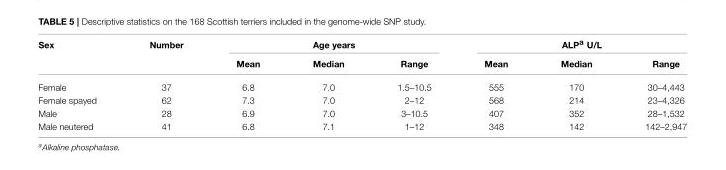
<table><thead><tr><td rowspan="2">Sex</td><td rowspan="2">Number</td><td colspan="3">Age years</td><td colspan="3">ALP<sup>a</sup> U/L</td></tr><tr><td>Mean</td><td>Median</td><td>Range</td><td>Mean</td><td>Median</td><td>Range</td></tr></thead><tbody><tr><td>Female</td><td>37</td><td>6.8</td><td>7.0</td><td>1.5–10.5</td><td>555</td><td>170</td><td>30–4,443</td></tr><tr><td>Female spayed</td><td>62</td><td>7.3</td><td>7.0</td><td>2–12</td><td>568</td><td>214</td><td>23–4,326</td></tr><tr><td>Male</td><td>28</td><td>6.9</td><td>7.0</td><td>3–10.5</td><td>407</td><td>352</td><td>28–1,532</td></tr><tr><td>Male neutered</td><td>41</td><td>6.8</td><td>7.1</td><td>1–12</td><td>348</td><td>142</td><td>142–2,947</td></tr></tbody></table>